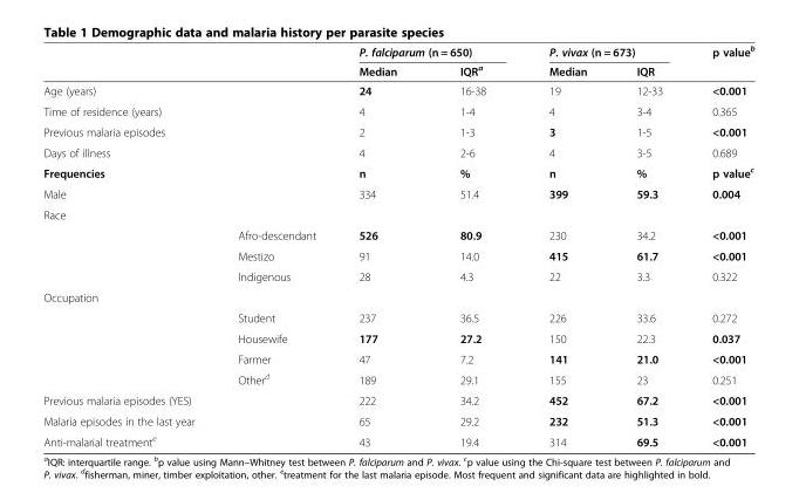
<table><thead><tr><td rowspan="2"></td><td rowspan="2"></td><td colspan="2">P. falciparum (n = 650)</td><td colspan="2">P. vivax (n = 673)</td><td rowspan="2">p value<sup>b</sup></td></tr><tr><td>Median</td><td>IQR<sup>a</sup></td><td>Median</td><td>IQR</td></tr></thead><tbody><tr><td>Age (years)</td><td></td><td>24</td><td>16-38</td><td>19</td><td>12-33</td><td>&lt;0.001</td></tr><tr><td>Time of residence (years)</td><td></td><td>4</td><td>1-4</td><td>4</td><td>3-4</td><td>0.365</td></tr><tr><td>Previous malaria episodes</td><td></td><td>2</td><td>1-3</td><td>3</td><td>1-5</td><td>&lt;0.001</td></tr><tr><td>Days of illness</td><td></td><td>4</td><td>2-6</td><td>4</td><td>3-5</td><td>0.689</td></tr><tr><td>Frequencies</td><td></td><td>n</td><td>%</td><td>n</td><td>%</td><td>p value<sup>c</sup></td></tr><tr><td>Male</td><td></td><td>334</td><td>51.4</td><td>399</td><td>59.3</td><td>0.004</td></tr><tr><td colspan="7">Race</td></tr><tr><td></td><td>Afro-descendant</td><td>526</td><td>80.9</td><td>230</td><td>34.2</td><td>&lt;0.001</td></tr><tr><td></td><td>Mestizo</td><td>91</td><td>14.0</td><td>415</td><td>61.7</td><td>&lt;0.001</td></tr><tr><td></td><td>Indigenous</td><td>28</td><td>4.3</td><td>22</td><td>3.3</td><td>0.322</td></tr><tr><td colspan="7">Occupation</td></tr><tr><td></td><td>Student</td><td>237</td><td>36.5</td><td>226</td><td>33.6</td><td>0.272</td></tr><tr><td></td><td>Housewife</td><td>177</td><td>27.2</td><td>150</td><td>22.3</td><td>0.037</td></tr><tr><td></td><td>Farmer</td><td>47</td><td>7.2</td><td>141</td><td>21.0</td><td>&lt;0.001</td></tr><tr><td></td><td>Other<sup>d</sup></td><td>189</td><td>29.1</td><td>155</td><td>23</td><td>0.251</td></tr><tr><td>Previous malaria episodes (YES)</td><td></td><td>222</td><td>34.2</td><td>452</td><td>67.2</td><td>&lt;0.001</td></tr><tr><td>Malaria episodes in the last year</td><td></td><td>65</td><td>29.2</td><td>232</td><td>51.3</td><td>&lt;0.001</td></tr><tr><td>Anti-malarial treatment<sup>e</sup></td><td></td><td>43</td><td>19.4</td><td>314</td><td>69.5</td><td>&lt;0.001</td></tr></tbody></table>